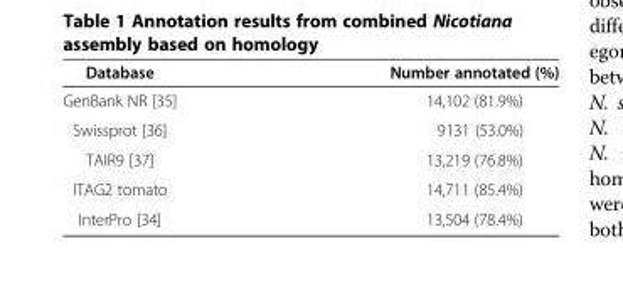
<table><thead><tr><td>Database</td><td>Number annotated (%)</td></tr></thead><tbody><tr><td>GenBank NR [35]</td><td>14,102 (81.9%)</td></tr><tr><td>Swissprot [36]</td><td>9131 (53.0%)</td></tr><tr><td>TAIR9 [37]</td><td>13,219 (76.8%)</td></tr><tr><td>ITAG2 tomato</td><td>14,711 (85.4%)</td></tr><tr><td>InterPro [34]</td><td>13,504 (78.4%)</td></tr></tbody></table>